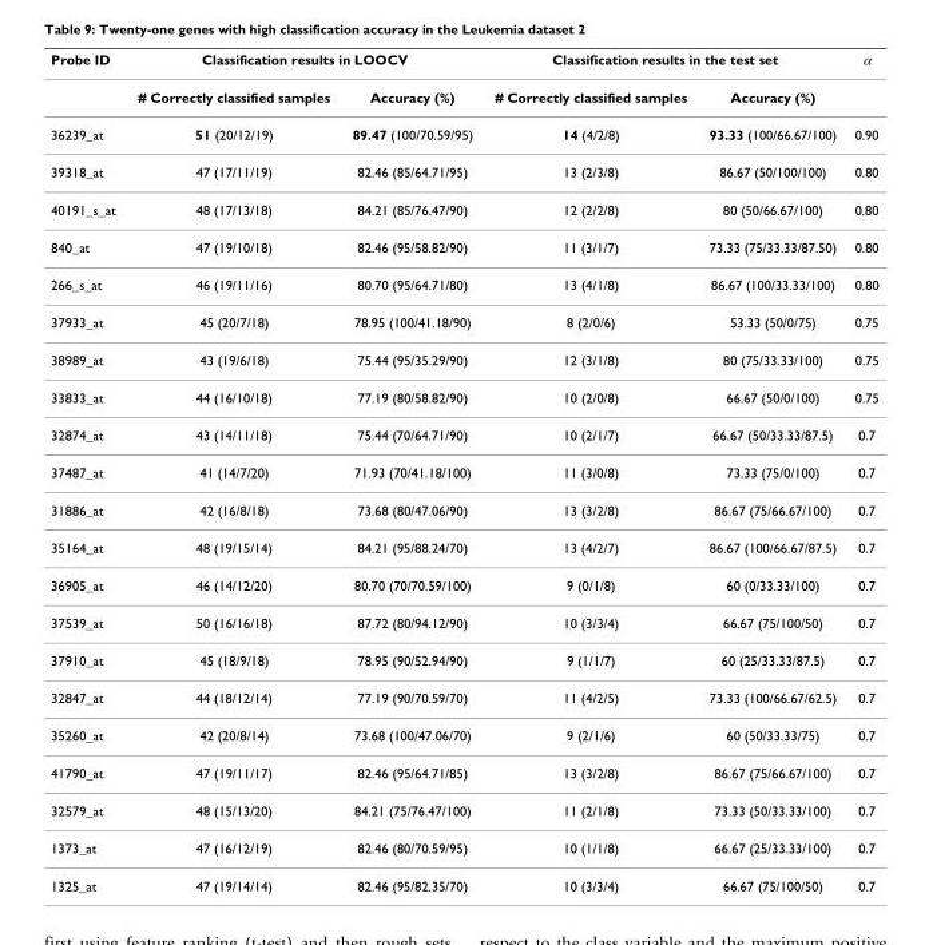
<table><thead><tr><td rowspan="2">Probe ID</td><td colspan="2">Classification results in LOOCV</td><td colspan="2">Classification results in the test set</td><td rowspan="2">α</td></tr><tr><td># Correctly classified samples</td><td>Accuracy (%)</td><td># Correctly classified samples</td><td>Accuracy (%)</td></tr></thead><tbody><tr><td>36239_at</td><td>51 (20/12/19)</td><td>89.47 (100/70.59/95)</td><td>14 (4/2/8)</td><td>93.33 (100/66.67/100)</td><td>0.90</td></tr><tr><td>39318_at</td><td>47 (17/11/19)</td><td>82.46 (85/64.71/95)</td><td>13 (2/3/8)</td><td>86.67 (50/100/100)</td><td>0.80</td></tr><tr><td>40191_s_at</td><td>48 (17/13/18)</td><td>84.21 (85/76.47/90)</td><td>12 (2/2/8)</td><td>80 (50/66.67/100)</td><td>0.80</td></tr><tr><td>840_at</td><td>47 (19/10/18)</td><td>82.46 (95/58.82/90)</td><td>11 (3/1/7)</td><td>73.33 (75/33.33/87.50)</td><td>0.80</td></tr><tr><td>266_s_at</td><td>46 (19/11/16)</td><td>80.70 (95/64.71/80)</td><td>13 (4/1/8)</td><td>86.67 (100/33.33/100)</td><td>0.80</td></tr><tr><td>37933_at</td><td>45 (20/7/18)</td><td>78.95 (100/41.18/90)</td><td>8 (2/0/6)</td><td>53.33 (50/0/75)</td><td>0.75</td></tr><tr><td>38989_at</td><td>43 (19/6/18)</td><td>75.44 (95/35.29/90)</td><td>12 (3/1/8)</td><td>80 (75/33.33/100)</td><td>0.75</td></tr><tr><td>33833_at</td><td>44 (16/10/18)</td><td>77.19 (80/58.82/90)</td><td>10 (2/0/8)</td><td>66.67 (50/0/100)</td><td>0.75</td></tr><tr><td>32874_at</td><td>43 (14/11/18)</td><td>75.44 (70/64.71/90)</td><td>10 (2/1/7)</td><td>66.67 (50/33.33/87.5)</td><td>0.7</td></tr><tr><td>37487_at</td><td>41 (14/7/20)</td><td>71.93 (70/41.18/100)</td><td>11 (3/0/8)</td><td>73.33 (75/0/100)</td><td>0.7</td></tr><tr><td>31886_at</td><td>42 (16/8/18)</td><td>73.68 (80/47.06/90)</td><td>13 (3/2/8)</td><td>86.67 (75/66.67/100)</td><td>0.7</td></tr><tr><td>35164_at</td><td>48 (19/15/14)</td><td>84.21 (95/88.24/70)</td><td>13 (4/2/7)</td><td>86.67 (100/66.67/87.5)</td><td>0.7</td></tr><tr><td>36905_at</td><td>46 (14/12/20)</td><td>80.70 (70/70.59/100)</td><td>9 (0/1/8)</td><td>60 (0/33.33/100)</td><td>0.7</td></tr><tr><td>37539_at</td><td>50 (16/16/18)</td><td>87.72 (80/94.12/90)</td><td>10 (3/3/4)</td><td>66.67 (75/100/50)</td><td>0.7</td></tr><tr><td>37910_at</td><td>45 (18/9/18)</td><td>78.95 (90/52.94/90)</td><td>9 (1/1/7)</td><td>60 (25/33.33/87.5)</td><td>0.7</td></tr><tr><td>32847_at</td><td>44 (18/12/14)</td><td>77.19 (90/70.59/70)</td><td>11 (4/2/5)</td><td>73.33 (100/66.67/62.5)</td><td>0.7</td></tr><tr><td>35260_at</td><td>42 (20/8/14)</td><td>73.68 (100/47.06/70)</td><td>9 (2/1/6)</td><td>60 (50/33.33/75)</td><td>0.7</td></tr><tr><td>41790_at</td><td>47 (19/11/17)</td><td>82.46 (95/64.71/85)</td><td>13 (3/2/8)</td><td>86.67 (75/66.67/100)</td><td>0.7</td></tr><tr><td>32579_at</td><td>48 (15/13/20)</td><td>84.21 (75/76.47/100)</td><td>11 (2/1/8)</td><td>73.33 (50/33.33/100)</td><td>0.7</td></tr><tr><td>1373_at</td><td>47 (16/12/19)</td><td>82.46 (80/70.59/95)</td><td>10 (1/1/8)</td><td>66.67 (25/33.33/100)</td><td>0.7</td></tr><tr><td>1325_at</td><td>47 (19/14/14)</td><td>82.46 (95/82.35/70)</td><td>10 (3/3/4)</td><td>66.67 (75/100/50)</td><td>0.7</td></tr></tbody></table>